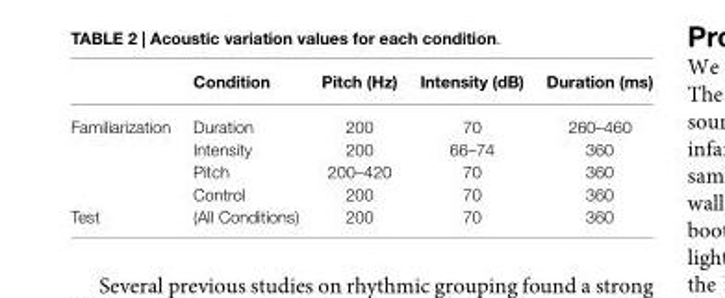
<table><thead><tr><td></td><td>Condition</td><td>Pitch (Hz)</td><td>Intensity (dB)</td><td>Duration (ms)</td></tr></thead><tbody><tr><td rowspan="4">Familiarization</td><td>Duration</td><td>200</td><td>70</td><td>260–460</td></tr><tr><td>Intensity</td><td>200</td><td>66–74</td><td>360</td></tr><tr><td>Pitch</td><td>200–420</td><td>70</td><td>360</td></tr><tr><td>Control</td><td>200</td><td>70</td><td>360</td></tr><tr><td>Test</td><td>(All Conditions)</td><td>200</td><td>70</td><td>360</td></tr></tbody></table>